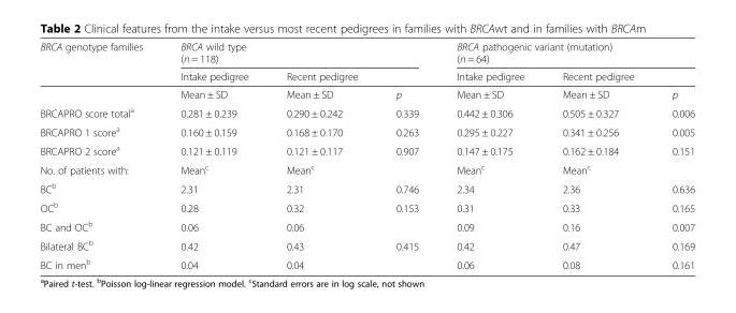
<table><thead><tr><td rowspan="2">BRCA genotype families</td><td colspan="3">BRCA wild type (n = 118)</td><td colspan="3">BRCA pathogenic variant (mutation) (n = 64)</td></tr><tr><td>Intake pedigree</td><td>Recent pedigree</td><td></td><td>Intake pedigree</td><td>Recent pedigree</td><td></td></tr></thead><tbody><tr><td></td><td>Mean ± SD</td><td>Mean ± SD</td><td>p</td><td>Mean ± SD</td><td>Mean ± SD</td><td>p</td></tr><tr><td>BRCAPRO score total<sup>a</sup></td><td>0.281 ± 0.239</td><td>0.290 ± 0.242</td><td>0.339</td><td>0.442 ± 0.306</td><td>0.505 ± 0.327</td><td>0.006</td></tr><tr><td>BRCAPRO 1 score<sup>a</sup></td><td>0.160 ± 0.159</td><td>0.168 ± 0.170</td><td>0.263</td><td>0.295 ± 0.227</td><td>0.341 ± 0.256</td><td>0.005</td></tr><tr><td>BRCAPRO 2 score<sup>a</sup></td><td>0.121 ± 0.119</td><td>0.121 ± 0.117</td><td>0.907</td><td>0.147 ± 0.175</td><td>0.162 ± 0.184</td><td>0.151</td></tr><tr><td>No. of patients with:</td><td>Mean<sup>c</sup></td><td>Mean<sup>c</sup></td><td></td><td>Mean<sup>c</sup></td><td>Mean<sup>c</sup></td><td></td></tr><tr><td>BC<sup>b</sup></td><td>2.31</td><td>2.31</td><td>0.746</td><td>2.34</td><td>2.36</td><td>0.636</td></tr><tr><td>OC<sup>b</sup></td><td>0.28</td><td>0.32</td><td>0.153</td><td>0.31</td><td>0.33</td><td>0.165</td></tr><tr><td>BC and OC<sup>b</sup></td><td>0.06</td><td>0.06</td><td></td><td>0.09</td><td>0.16</td><td>0.007</td></tr><tr><td>Bilateral BC<sup>b</sup></td><td>0.42</td><td>0.43</td><td>0.415</td><td>0.42</td><td>0.47</td><td>0.169</td></tr><tr><td>BC in men<sup>b</sup></td><td>0.04</td><td>0.04</td><td></td><td>0.06</td><td>0.08</td><td>0.161</td></tr></tbody></table>